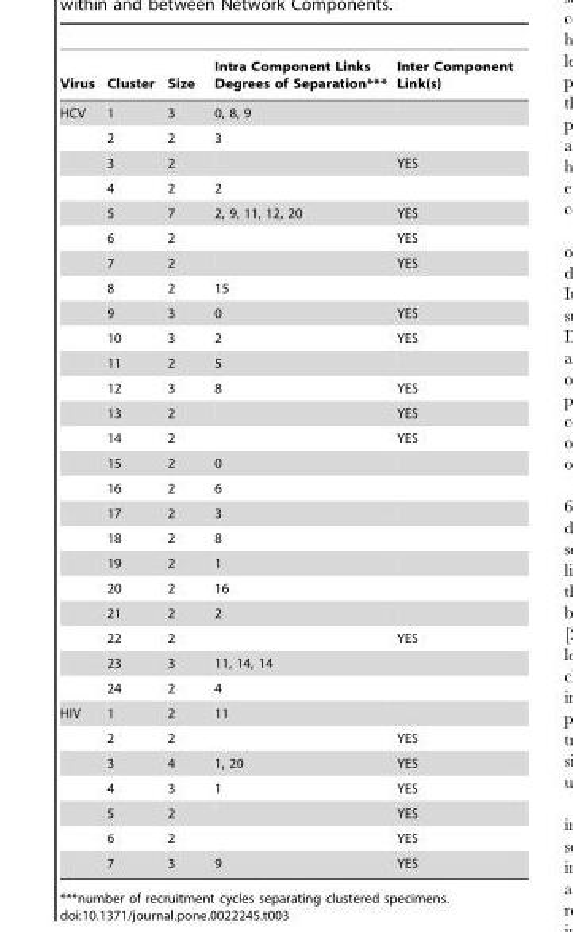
<table><thead><tr><td>Virus</td><td>Cluster</td><td>Size</td><td>Intra Component Links Degrees of Separation***</td><td>Inter Component Link(s)</td></tr></thead><tbody><tr><td rowspan="24">HCV</td><td>1</td><td>3</td><td>0, 8, 9</td><td></td></tr><tr><td>2</td><td>2</td><td>3</td><td></td></tr><tr><td>3</td><td>2</td><td></td><td>YES</td></tr><tr><td>4</td><td>2</td><td>2</td><td></td></tr><tr><td>5</td><td>7</td><td>2, 9, 11, 12, 20</td><td>YES</td></tr><tr><td>6</td><td>2</td><td></td><td>YES</td></tr><tr><td>7</td><td>2</td><td></td><td>YES</td></tr><tr><td>8</td><td>2</td><td>15</td><td></td></tr><tr><td>9</td><td>3</td><td>0</td><td>YES</td></tr><tr><td>10</td><td>3</td><td>2</td><td>YES</td></tr><tr><td>11</td><td>2</td><td>5</td><td></td></tr><tr><td>12</td><td>3</td><td>8</td><td>YES</td></tr><tr><td>13</td><td>2</td><td></td><td>YES</td></tr><tr><td>14</td><td>2</td><td></td><td>YES</td></tr><tr><td>15</td><td>2</td><td>0</td><td></td></tr><tr><td>16</td><td>2</td><td>6</td><td></td></tr><tr><td>17</td><td>2</td><td>3</td><td></td></tr><tr><td>18</td><td>2</td><td>8</td><td></td></tr><tr><td>19</td><td>2</td><td>1</td><td></td></tr><tr><td>20</td><td>2</td><td>16</td><td></td></tr><tr><td>21</td><td>2</td><td>2</td><td></td></tr><tr><td>22</td><td>2</td><td></td><td>YES</td></tr><tr><td>23</td><td>3</td><td>11, 14, 14</td><td></td></tr><tr><td>24</td><td>2</td><td>4</td><td></td></tr><tr><td rowspan="7">HIV</td><td>1</td><td>2</td><td>11</td><td></td></tr><tr><td>2</td><td>2</td><td></td><td>YES</td></tr><tr><td>3</td><td>4</td><td>1, 20</td><td>YES</td></tr><tr><td>4</td><td>3</td><td>1</td><td>YES</td></tr><tr><td>5</td><td>2</td><td></td><td>YES</td></tr><tr><td>6</td><td>2</td><td></td><td>YES</td></tr><tr><td>7</td><td>3</td><td>9</td><td>YES</td></tr></tbody></table>